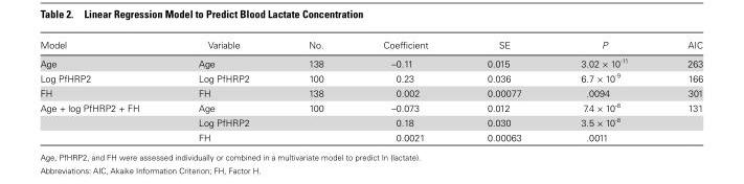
<table><thead><tr><td>Model</td><td>Variable</td><td>No.</td><td>Coefficient</td><td>SE</td><td>P</td><td>AIC</td></tr></thead><tbody><tr><td>Age</td><td>Age</td><td>138</td><td>–0.11</td><td>0.015</td><td>3.02 × 10<sup>-11</sup></td><td>263</td></tr><tr><td>Log PfHRP2</td><td>Log PfHRP2</td><td>100</td><td>0.23</td><td>0.036</td><td>6.7 × 10<sup>-9</sup></td><td>166</td></tr><tr><td>FH</td><td>FH</td><td>138</td><td>0.002</td><td>0.00077</td><td>.0094</td><td>301</td></tr><tr><td rowspan="3">Age + log PfHRP2 + FH</td><td>Age</td><td>100</td><td>–0.073</td><td>0.012</td><td>7.4 × 10<sup>-8</sup></td><td>131</td></tr><tr><td>Log PfHRP2</td><td></td><td>0.18</td><td>0.030</td><td>3.5 × 10<sup>-8</sup></td><td></td></tr><tr><td>FH</td><td></td><td>0.0021</td><td>0.00063</td><td>.0011</td><td></td></tr></tbody></table>